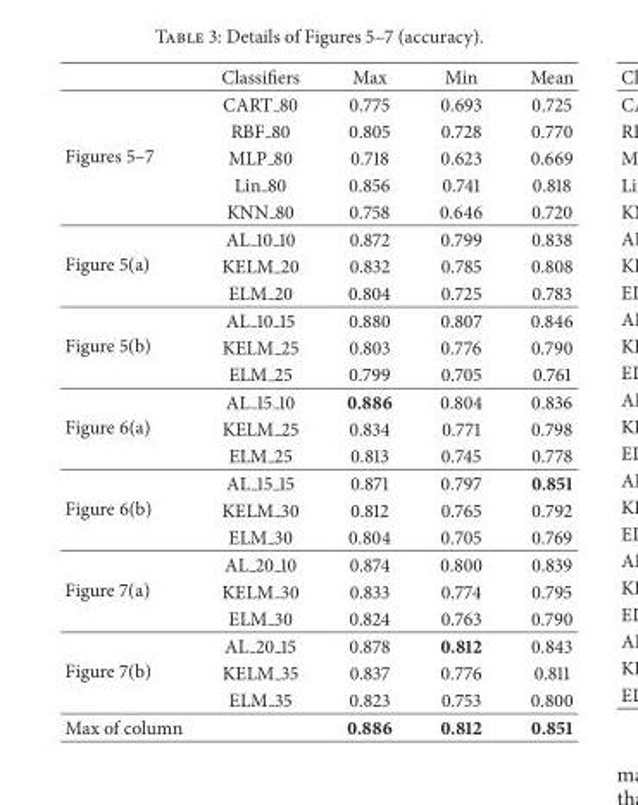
<table><thead><tr><td></td><td>Classifiers</td><td>Max</td><td>Min</td><td>Mean</td></tr></thead><tbody><tr><td rowspan="5">Figures 5–7</td><td>CART 80</td><td>0.775</td><td>0.693</td><td>0.725</td></tr><tr><td>RBF 80</td><td>0.805</td><td>0.728</td><td>0.770</td></tr><tr><td>MLP 80</td><td>0.718</td><td>0.623</td><td>0.669</td></tr><tr><td>Lin 80</td><td>0.856</td><td>0.741</td><td>0.818</td></tr><tr><td>KNN 80</td><td>0.758</td><td>0.646</td><td>0.720</td></tr><tr><td rowspan="3">Figure 5(a)</td><td>AL <sub>10</sub> 10</td><td>0.872</td><td>0.799</td><td>0.838</td></tr><tr><td>KELM 20</td><td>0.832</td><td>0.785</td><td>0.808</td></tr><tr><td>ELM 20</td><td>0.804</td><td>0.725</td><td>0.783</td></tr><tr><td rowspan="3">Figure 5(b)</td><td>AL <sub>10</sub> 15</td><td>0.880</td><td>0.807</td><td>0.846</td></tr><tr><td>KELM 25</td><td>0.803</td><td>0.776</td><td>0.790</td></tr><tr><td>ELM 25</td><td>0.799</td><td>0.705</td><td>0.761</td></tr><tr><td rowspan="3">Figure 6(a)</td><td>AL <sub>15</sub> 10</td><td>0.886</td><td>0.804</td><td>0.836</td></tr><tr><td>KELM 25</td><td>0.834</td><td>0.771</td><td>0.798</td></tr><tr><td>ELM 25</td><td>0.813</td><td>0.745</td><td>0.778</td></tr><tr><td rowspan="3">Figure 6(b)</td><td>AL <sub>15</sub> 15</td><td>0.871</td><td>0.797</td><td>0.851</td></tr><tr><td>KELM 30</td><td>0.812</td><td>0.765</td><td>0.792</td></tr><tr><td>ELM 30</td><td>0.804</td><td>0.705</td><td>0.769</td></tr><tr><td rowspan="3">Figure 7(a)</td><td>AL <sub>20</sub> 10</td><td>0.874</td><td>0.800</td><td>0.839</td></tr><tr><td>KELM 30</td><td>0.833</td><td>0.774</td><td>0.795</td></tr><tr><td>ELM 30</td><td>0.824</td><td>0.763</td><td>0.790</td></tr><tr><td rowspan="3">Figure 7(b)</td><td>AL <sub>20</sub> 15</td><td>0.878</td><td>0.812</td><td>0.843</td></tr><tr><td>KELM 35</td><td>0.837</td><td>0.776</td><td>0.811</td></tr><tr><td>ELM 35</td><td>0.823</td><td>0.753</td><td>0.800</td></tr><tr><td>Max of column</td><td></td><td>0.886</td><td>0.812</td><td>0.851</td></tr></tbody></table>